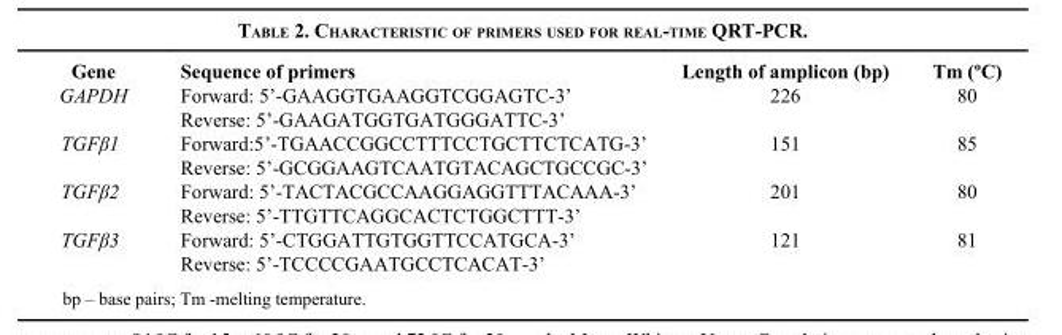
<table><thead><tr><td>Gene</td><td>Sequence of primers</td><td>Length of amplicon (bp)</td><td>Tm (ºC)</td></tr></thead><tbody><tr><td rowspan="2">GAPDH</td><td>Forward: 5’-GAAGGTGAAGGTCGGAGTC-3’</td><td>226</td><td>80</td></tr><tr><td>Reverse: 5’-GAAGATGGTGATGGGATTC-3’</td><td></td><td></td></tr><tr><td rowspan="2">TGFβ1</td><td>Forward:5’-TGAACCGGCCTTTCCTGCTTCTCATG-3’</td><td>151</td><td>85</td></tr><tr><td>Reverse: 5’-GCGGAAGTCAATGTACAGCTGCCGC-3’</td><td></td><td></td></tr><tr><td rowspan="2">TGFβ2</td><td>Forward: 5’-TACTACGCCAAGGAGGTTTACAAA-3’</td><td>201</td><td>80</td></tr><tr><td>Reverse: 5’-TTGTTCAGGCACTCTGGCTTT-3’</td><td></td><td></td></tr><tr><td rowspan="2">TGFβ3</td><td>Forward: 5’-CTGGATTGTGGTTCCATGCA-3’</td><td>121</td><td>81</td></tr><tr><td>Reverse: 5’-TCCCCGAATGCCTCACAT-3’</td><td></td><td></td></tr></tbody></table>